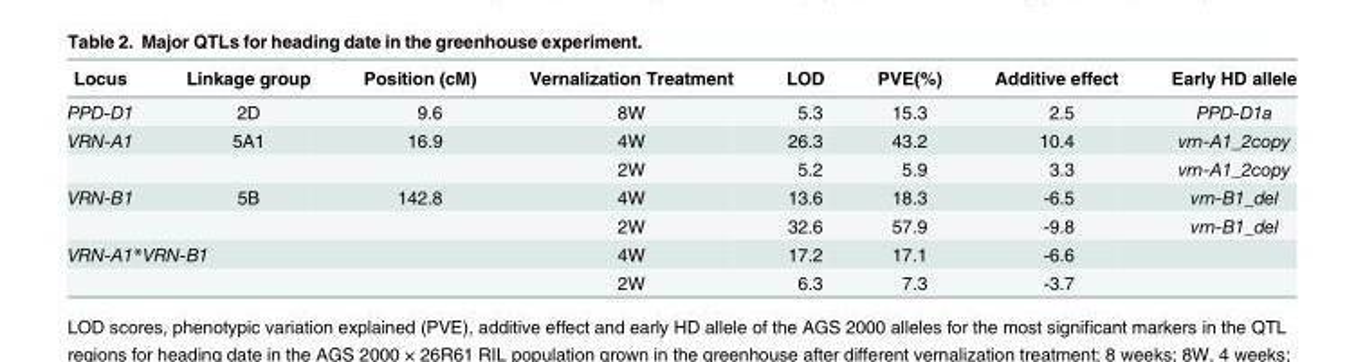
<table><thead><tr><td>Locus</td><td>Linkage group</td><td>Position (cM)</td><td>Vernalization Treatment</td><td>LOD</td><td>PVE(%)</td><td>Additive effect</td><td>Early HD allele</td></tr></thead><tbody><tr><td>PPD-D1</td><td>2D</td><td>9.6</td><td>8W</td><td>5.3</td><td>15.3</td><td>2.5</td><td>PPD-D1a</td></tr><tr><td rowspan="2">VRN-A1</td><td>5A1</td><td>16.9</td><td>4W</td><td>26.3</td><td>43.2</td><td>10.4</td><td>vrn-A1_2copy</td></tr><tr><td></td><td></td><td>2W</td><td>5.2</td><td>5.9</td><td>3.3</td><td>vrn-A1_2copy</td></tr><tr><td rowspan="2">VRN-B1</td><td>5B</td><td>142.8</td><td>4W</td><td>13.6</td><td>18.3</td><td>-6.5</td><td>vrn-B1_del</td></tr><tr><td></td><td></td><td>2W</td><td>32.6</td><td>57.9</td><td>-9.8</td><td>vrn-B1_del</td></tr><tr><td colspan="2">VRN-A1*VRN-B1</td><td></td><td>4W</td><td>17.2</td><td>17.1</td><td>-6.6</td><td></td></tr><tr><td></td><td></td><td></td><td>2W</td><td>6.3</td><td>7.3</td><td>-3.7</td><td></td></tr></tbody></table>